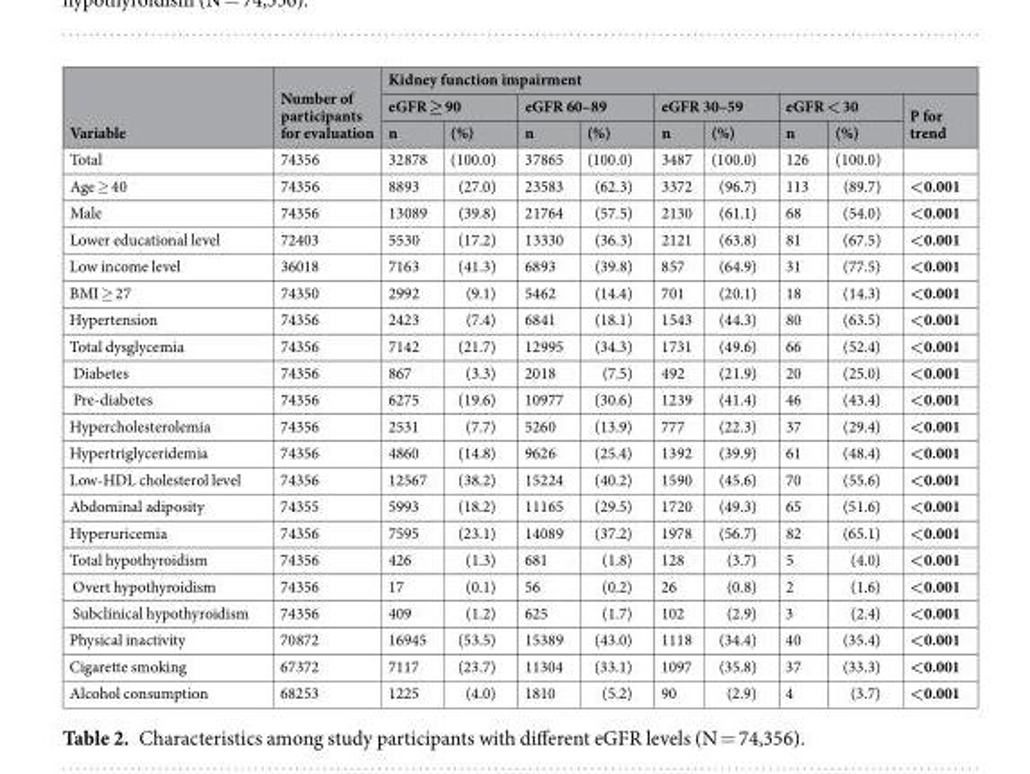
<table><thead><tr><td rowspan="3">Variable</td><td rowspan="3">Number of participants for evaluation</td><td colspan="9">Kidney function impairment</td></tr><tr><td colspan="2">eGFR ≥ 90</td><td colspan="2">eGFR 60–89</td><td colspan="2">eGFR 30–59</td><td colspan="2">eGFR &lt; 30</td><td rowspan="2">P for trend</td></tr><tr><td>n</td><td>(%)</td><td>n</td><td>(%)</td><td>n</td><td>(%)</td><td>n</td><td>(%)</td></tr></thead><tbody><tr><td>Total</td><td>74356</td><td>32878</td><td>(100.0)</td><td>37865</td><td>(100.0)</td><td>3487</td><td>(100.0)</td><td>126</td><td>(100.0)</td><td></td></tr><tr><td>Age ≥ 40</td><td>74356</td><td>8893</td><td>(27.0)</td><td>23583</td><td>(62.3)</td><td>3372</td><td>(96.7)</td><td>113</td><td>(89.7)</td><td>&lt;0.001</td></tr><tr><td>Male</td><td>74356</td><td>13089</td><td>(39.8)</td><td>21764</td><td>(57.5)</td><td>2130</td><td>(61.1)</td><td>68</td><td>(54.0)</td><td>&lt;0.001</td></tr><tr><td>Lower educational level</td><td>72403</td><td>5530</td><td>(17.2)</td><td>13330</td><td>(36.3)</td><td>2121</td><td>(63.8)</td><td>81</td><td>(67.5)</td><td>&lt;0.001</td></tr><tr><td>Low income level</td><td>36018</td><td>7163</td><td>(41.3)</td><td>6893</td><td>(39.8)</td><td>857</td><td>(64.9)</td><td>31</td><td>(77.5)</td><td>&lt;0.001</td></tr><tr><td>BMI ≥ 27</td><td>74350</td><td>2992</td><td>(9.1)</td><td>5462</td><td>(14.4)</td><td>701</td><td>(20.1)</td><td>18</td><td>(14.3)</td><td>&lt;0.001</td></tr><tr><td>Hypertension</td><td>74356</td><td>2423</td><td>(7.4)</td><td>6841</td><td>(18.1)</td><td>1543</td><td>(44.3)</td><td>80</td><td>(63.5)</td><td>&lt;0.001</td></tr><tr><td>Total dysglycemia</td><td>74356</td><td>7142</td><td>(21.7)</td><td>12995</td><td>(34.3)</td><td>1731</td><td>(49.6)</td><td>66</td><td>(52.4)</td><td>&lt;0.001</td></tr><tr><td>Diabetes</td><td>74356</td><td>867</td><td>(3.3)</td><td>2018</td><td>(7.5)</td><td>492</td><td>(21.9)</td><td>20</td><td>(25.0)</td><td>&lt;0.001</td></tr><tr><td>Pre-diabetes</td><td>74356</td><td>6275</td><td>(19.6)</td><td>10977</td><td>(30.6)</td><td>1239</td><td>(41.4)</td><td>46</td><td>(43.4)</td><td>&lt;0.001</td></tr><tr><td>Hypercholesterolemia</td><td>74356</td><td>2531</td><td>(7.7)</td><td>5260</td><td>(13.9)</td><td>777</td><td>(22.3)</td><td>37</td><td>(29.4)</td><td>&lt;0.001</td></tr><tr><td>Hypertriglyceridemia</td><td>74356</td><td>4860</td><td>(14.8)</td><td>9626</td><td>(25.4)</td><td>1392</td><td>(39.9)</td><td>61</td><td>(48.4)</td><td>&lt;0.001</td></tr><tr><td>Low-HDL cholesterol level</td><td>74356</td><td>12567</td><td>(38.2)</td><td>15224</td><td>(40.2)</td><td>1590</td><td>(45.6)</td><td>70</td><td>(55.6)</td><td>&lt;0.001</td></tr><tr><td>Abdominal adiposity</td><td>74355</td><td>5993</td><td>(18.2)</td><td>11165</td><td>(29.5)</td><td>1720</td><td>(49.3)</td><td>65</td><td>(51.6)</td><td>&lt;0.001</td></tr><tr><td>Hyperuricemia</td><td>74356</td><td>7595</td><td>(23.1)</td><td>14089</td><td>(37.2)</td><td>1978</td><td>(56.7)</td><td>82</td><td>(65.1)</td><td>&lt;0.001</td></tr><tr><td>Total hypothyroidism</td><td>74356</td><td>426</td><td>(1.3)</td><td>681</td><td>(1.8)</td><td>128</td><td>(3.7)</td><td>5</td><td>(4.0)</td><td>&lt;0.001</td></tr><tr><td>Overt hypothyroidism</td><td>74356</td><td>17</td><td>(0.1)</td><td>56</td><td>(0.2)</td><td>26</td><td>(0.8)</td><td>2</td><td>(1.6)</td><td>&lt;0.001</td></tr><tr><td>Subclinical hypothyroidism</td><td>74356</td><td>409</td><td>(1.2)</td><td>625</td><td>(1.7)</td><td>102</td><td>(2.9)</td><td>3</td><td>(2.4)</td><td>&lt;0.001</td></tr><tr><td>Physical inactivity</td><td>70872</td><td>16945</td><td>(53.5)</td><td>15389</td><td>(43.0)</td><td>1118</td><td>(34.4)</td><td>40</td><td>(35.4)</td><td>&lt;0.001</td></tr><tr><td>Cigarette smoking</td><td>67372</td><td>7117</td><td>(23.7)</td><td>11304</td><td>(33.1)</td><td>1097</td><td>(35.8)</td><td>37</td><td>(33.3)</td><td>&lt;0.001</td></tr><tr><td>Alcohol consumption</td><td>68253</td><td>1225</td><td>(4.0)</td><td>1810</td><td>(5.2)</td><td>90</td><td>(2.9)</td><td>4</td><td>(3.7)</td><td>&lt;0.001</td></tr></tbody></table>